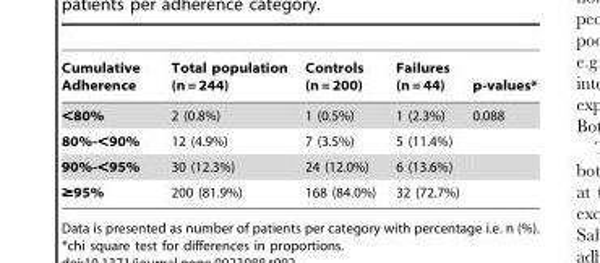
<table><thead><tr><td>Cumulative Adherence</td><td>Total population (n = 244)</td><td>Controls (n = 200)</td><td>Failures (n = 44)</td><td>p-values*</td></tr></thead><tbody><tr><td>&lt;80%</td><td>2 (0.8%)</td><td>1 (0.5%)</td><td>1 (2.3%)</td><td>0.088</td></tr><tr><td>80%-&lt;90%</td><td>12 (4.9%)</td><td>7 (3.5%)</td><td>5 (11.4%)</td><td></td></tr><tr><td>90%-&lt;95%</td><td>30 (12.3%)</td><td>24 (12.0%)</td><td>6 (13.6%)</td><td></td></tr><tr><td>≥95%</td><td>200 (81.9%)</td><td>168 (84.0%)</td><td>32 (72.7%)</td><td></td></tr></tbody></table>